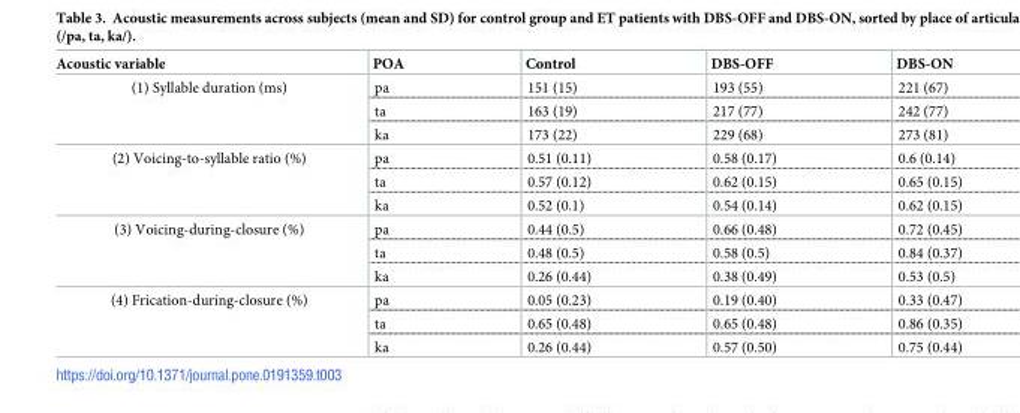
<table><thead><tr><td>Acoustic variable</td><td>POA</td><td>Control</td><td>DBS-OFF</td><td>DBS-ON</td></tr></thead><tbody><tr><td rowspan="3">(1) Syllable duration (ms)</td><td>pa</td><td>151 (15)</td><td>193 (55)</td><td>221 (67)</td></tr><tr><td>ta</td><td>163 (19)</td><td>217 (77)</td><td>242 (77)</td></tr><tr><td>ka</td><td>173 (22)</td><td>229 (68)</td><td>273 (81)</td></tr><tr><td rowspan="3">(2) Voicing-to-syllable ratio (%)</td><td>pa</td><td>0.51 (0.11)</td><td>0.58 (0.17)</td><td>0.6 (0.14)</td></tr><tr><td>ta</td><td>0.57 (0.12)</td><td>0.62 (0.15)</td><td>0.65 (0.15)</td></tr><tr><td>ka</td><td>0.52 (0.1)</td><td>0.54 (0.14)</td><td>0.62 (0.15)</td></tr><tr><td rowspan="3">(3) Voicing-during-closure (%)</td><td>pa</td><td>0.44 (0.5)</td><td>0.66 (0.48)</td><td>0.72 (0.45)</td></tr><tr><td>ta</td><td>0.48 (0.5)</td><td>0.58 (0.5)</td><td>0.84 (0.37)</td></tr><tr><td>ka</td><td>0.26 (0.44)</td><td>0.38 (0.49)</td><td>0.53 (0.5)</td></tr><tr><td rowspan="3">(4) Frication-during-closure (%)</td><td>pa</td><td>0.05 (0.23)</td><td>0.19 (0.40)</td><td>0.33 (0.47)</td></tr><tr><td>ta</td><td>0.65 (0.48)</td><td>0.65 (0.48)</td><td>0.86 (0.35)</td></tr><tr><td>ka</td><td>0.26 (0.44)</td><td>0.57 (0.50)</td><td>0.75 (0.44)</td></tr></tbody></table>